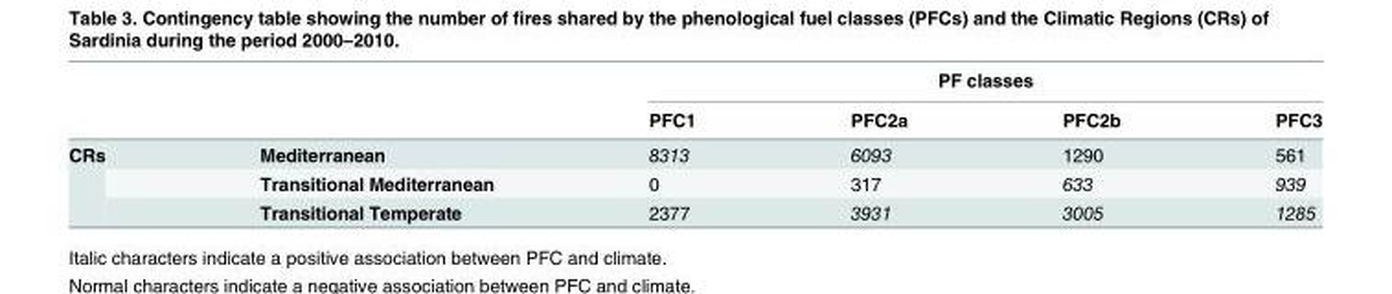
<table><thead><tr><td rowspan="2"></td><td rowspan="2"></td><td colspan="4">PF classes</td></tr><tr><td>PFC1</td><td>PFC2a</td><td>PFC2b</td><td>PFC3</td></tr></thead><tbody><tr><td rowspan="3">CRs</td><td>Mediterranean</td><td>8313</td><td>6093</td><td>1290</td><td>561</td></tr><tr><td>Transitional Mediterranean</td><td>0</td><td>317</td><td>633</td><td>939</td></tr><tr><td>Transitional Temperate</td><td>2377</td><td>3931</td><td>3005</td><td>1285</td></tr></tbody></table>